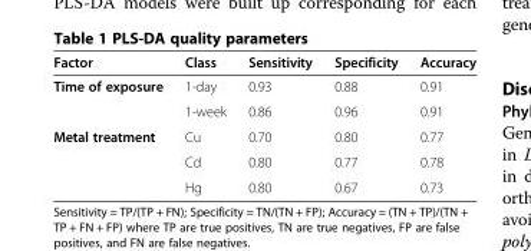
<table><thead><tr><td>Factor</td><td>Class</td><td>Sensitivity</td><td>Specificity</td><td>Accuracy</td></tr></thead><tbody><tr><td rowspan="2">Time of exposure</td><td>1-day</td><td>0.93</td><td>0.88</td><td>0.91</td></tr><tr><td>1-week</td><td>0.86</td><td>0.96</td><td>0.91</td></tr><tr><td rowspan="3">Metal treatment</td><td>Cu</td><td>0.70</td><td>0.80</td><td>0.77</td></tr><tr><td>Cd</td><td>0.80</td><td>0.77</td><td>0.78</td></tr><tr><td>Hg</td><td>0.80</td><td>0.67</td><td>0.73</td></tr></tbody></table>